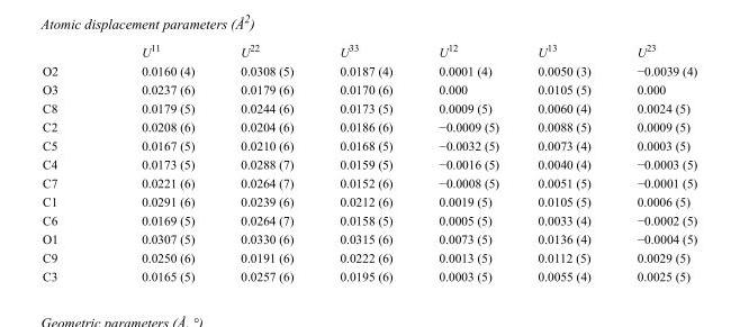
<table><thead><tr><td></td><td>U<sup>11</sup></td><td>U<sup>22</sup></td><td>U<sup>33</sup></td><td>U<sup>12</sup></td><td>U<sup>13</sup></td><td>U<sup>23</sup></td></tr></thead><tbody><tr><td>O2</td><td>0.0160 (4)</td><td>0.0308 (5)</td><td>0.0187 (4)</td><td>0.0001 (4)</td><td>0.0050 (3)</td><td>−0.0039 (4)</td></tr><tr><td>O3</td><td>0.0237 (6)</td><td>0.0179 (6)</td><td>0.0170 (6)</td><td>0.000</td><td>0.0105 (5)</td><td>0.000</td></tr><tr><td>C8</td><td>0.0179 (5)</td><td>0.0244 (6)</td><td>0.0173 (5)</td><td>0.0009 (5)</td><td>0.0060 (4)</td><td>0.0024 (5)</td></tr><tr><td>C2</td><td>0.0208 (6)</td><td>0.0204 (6)</td><td>0.0186 (6)</td><td>−0.0009 (5)</td><td>0.0088 (5)</td><td>0.0009 (5)</td></tr><tr><td>C5</td><td>0.0167 (5)</td><td>0.0210 (6)</td><td>0.0168 (5)</td><td>−0.0032 (5)</td><td>0.0073 (4)</td><td>0.0003 (5)</td></tr><tr><td>C4</td><td>0.0173 (5)</td><td>0.0288 (7)</td><td>0.0159 (5)</td><td>−0.0016 (5)</td><td>0.0040 (4)</td><td>−0.0003 (5)</td></tr><tr><td>C7</td><td>0.0221 (6)</td><td>0.0264 (7)</td><td>0.0152 (6)</td><td>−0.0008 (5)</td><td>0.0051 (5)</td><td>−0.0001 (5)</td></tr><tr><td>C1</td><td>0.0291 (6)</td><td>0.0239 (6)</td><td>0.0212 (6)</td><td>0.0019 (5)</td><td>0.0105 (5)</td><td>0.0006 (5)</td></tr><tr><td>C6</td><td>0.0169 (5)</td><td>0.0264 (7)</td><td>0.0158 (5)</td><td>0.0005 (5)</td><td>0.0033 (4)</td><td>−0.0002 (5)</td></tr><tr><td>O1</td><td>0.0307 (5)</td><td>0.0330 (6)</td><td>0.0315 (6)</td><td>0.0073 (5)</td><td>0.0136 (4)</td><td>−0.0004 (5)</td></tr><tr><td>C9</td><td>0.0250 (6)</td><td>0.0191 (6)</td><td>0.0222 (6)</td><td>0.0013 (5)</td><td>0.0112 (5)</td><td>0.0029 (5)</td></tr><tr><td>C3</td><td>0.0165 (5)</td><td>0.0257 (6)</td><td>0.0195 (6)</td><td>0.0003 (5)</td><td>0.0055 (4)</td><td>0.0025 (5)</td></tr></tbody></table>